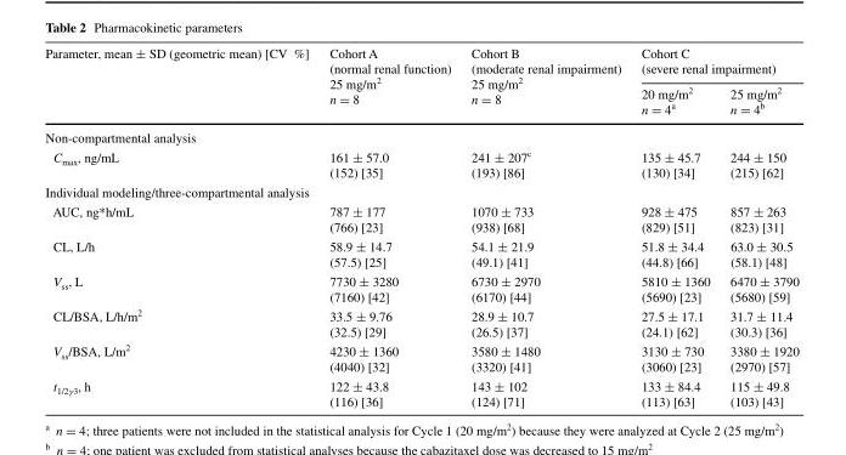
<table><thead><tr><td rowspan="2">Parameter, mean ± SD (geometric mean) [CV %]</td><td rowspan="2">Cohort A (normal renal function) 25 mg/m<sup>2</sup> n = 8</td><td rowspan="2">Cohort B (moderate renal impairment) 25 mg/m<sup>2</sup> n = 8</td><td colspan="2">Cohort C (severe renal impairment)</td></tr><tr><td>20 mg/m<sup>2</sup> n = 4<sup>a</sup></td><td>25 mg/m<sup>2</sup> n = 4<sup>b</sup></td></tr></thead><tbody><tr><td colspan="5">Non-compartmental analysis</td></tr><tr><td>C<sub>max</sub>, ng/mL</td><td>161 ± 57.0 (152) [35]</td><td>241 ± 207<sup>c</sup> (193) [86]</td><td>135 ± 45.7 (130) [34]</td><td>244 ± 150 (215) [62]</td></tr><tr><td colspan="5">Individual modeling/three-compartmental analysis</td></tr><tr><td>AUC, ng*h/mL</td><td>787 ± 177 (766) [23]</td><td>1070 ± 733 (938) [68]</td><td>928 ± 475 (829) [51]</td><td>857 ± 263 (823) [31]</td></tr><tr><td>CL, L/h</td><td>58.9 ± 14.7 (57.5) [25]</td><td>54.1 ± 21.9 (49.1) [41]</td><td>51.8 ± 34.4 (44.8) [66]</td><td>63.0 ± 30.5 (58.1) [48]</td></tr><tr><td>V<sub>ss</sub>, L</td><td>7730 ± 3280 (7160) [42]</td><td>6730 ± 2970 (6170) [44]</td><td>5810 ± 1360 (5690) [23]</td><td>6470 ± 3790 (5680) [59]</td></tr><tr><td>CL/BSA, L/h/m<sup>2</sup></td><td>33.5 ± 9.76 (32.5) [29]</td><td>28.9 ± 10.7 (26.5) [37]</td><td>27.5 ± 17.1 (24.1) [62]</td><td>31.7 ± 11.4 (30.3) [36]</td></tr><tr><td>V<sub>ss</sub>/BSA, L/m<sup>2</sup></td><td>4230 ± 1360 (4040) [32]</td><td>3580 ± 1480 (3320) [41]</td><td>3130 ± 730 (3060) [23]</td><td>3380 ± 1920 (2970) [57]</td></tr><tr><td>t<sub>1/2γ3</sub>, h</td><td>122 ± 43.8 (116) [36]</td><td>143 ± 102 (124) [71]</td><td>133 ± 84.4 (113) [63]</td><td>115 ± 49.8 (103) [43]</td></tr></tbody></table>